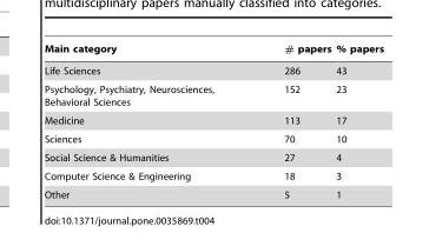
<table><thead><tr><td>Main category</td><td># papers</td><td>% papers</td></tr></thead><tbody><tr><td>Life Sciences</td><td>286</td><td>43</td></tr><tr><td>Psychology, Psychiatry, Neurosciences, Behavioral Sciences</td><td>152</td><td>23</td></tr><tr><td>Medicine</td><td>113</td><td>17</td></tr><tr><td>Sciences</td><td>70</td><td>10</td></tr><tr><td>Social Science &amp; Humanities</td><td>27</td><td>4</td></tr><tr><td>Computer Science &amp; Engineering</td><td>18</td><td>3</td></tr><tr><td>Other</td><td>5</td><td>1</td></tr></tbody></table>